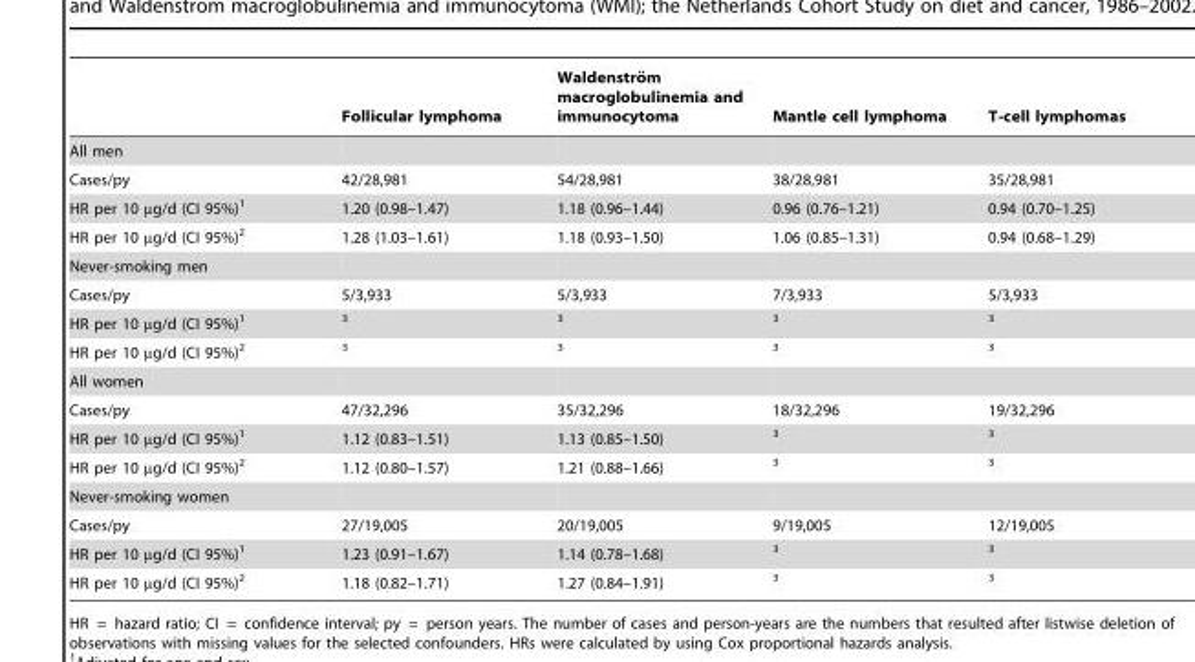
<table><thead><tr><td></td><td>Follicular lymphoma</td><td>Waldenstro¨ m macroglobulinemia and immunocytoma</td><td>Mantle cell lymphoma</td><td>T-cell lymphomas</td></tr></thead><tbody><tr><td colspan="5">All men</td></tr><tr><td>Cases/py</td><td>42/28,981</td><td>54/28,981</td><td>38/28,981</td><td>35/28,981</td></tr><tr><td>HR per 10 µg/d (CI 95%)<sup>1</sup></td><td>1.20 (0.98–1.47)</td><td>1.18 (0.96–1.44)</td><td>0.96 (0.76–1.21)</td><td>0.94 (0.70–1.25)</td></tr><tr><td>HR per 10 µg/d (CI 95%)<sup>2</sup></td><td>1.28 (1.03–1.61)</td><td>1.18 (0.93–1.50)</td><td>1.06 (0.85–1.31)</td><td>0.94 (0.68–1.29)</td></tr><tr><td colspan="5">Never-smoking men</td></tr><tr><td>Cases/py</td><td>5/3,933</td><td>5/3,933</td><td>7/3,933</td><td>5/3,933</td></tr><tr><td>HR per 10 µg/d (CI 95%)<sup>1</sup></td><td>3</td><td>3</td><td>3</td><td>3</td></tr><tr><td>HR per 10 µg/d (CI 95%)<sup>2</sup></td><td>3</td><td>3</td><td>3</td><td>3</td></tr><tr><td colspan="5">All women</td></tr><tr><td>Cases/py</td><td>47/32,296</td><td>35/32,296</td><td>18/32,296</td><td>19/32,296</td></tr><tr><td>HR per 10 µg/d (CI 95%)<sup>1</sup></td><td>1.12 (0.83–1.51)</td><td>1.13 (0.85–1.50)</td><td>3</td><td>3</td></tr><tr><td>HR per 10 µg/d (CI 95%)<sup>2</sup></td><td>1.12 (0.80–1.57)</td><td>1.21 (0.88–1.66)</td><td>3</td><td>3</td></tr><tr><td colspan="5">Never-smoking women</td></tr><tr><td>Cases/py</td><td>27/19,005</td><td>20/19,005</td><td>9/19,005</td><td>12/19,005</td></tr><tr><td>HR per 10 µg/d (CI 95%)<sup>1</sup></td><td>1.23 (0.91–1.67)</td><td>1.14 (0.78–1.68)</td><td>3</td><td>3</td></tr><tr><td>HR per 10 µg/d (CI 95%)<sup>2</sup></td><td>1.18 (0.82–1.71)</td><td>1.27 (0.84–1.91)</td><td>3</td><td>3</td></tr></tbody></table>